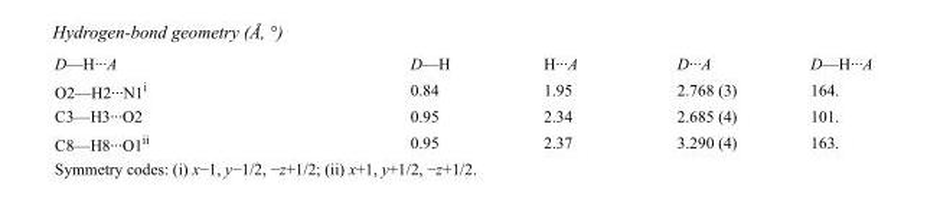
<table><tbody><tr><td>D—H···A</td><td>D—H</td><td>H···A</td><td>D···A</td><td>D—H···A</td></tr><tr><td>O2—H2···N1<sup>i</sup></td><td>0.84</td><td>1.95</td><td>2.768 (3)</td><td>164.</td></tr><tr><td>C3—H3···O2</td><td>0.95</td><td>2.34</td><td>2.685 (4)</td><td>101.</td></tr><tr><td>C8—H8···O1<sup>ii</sup></td><td>0.95</td><td>2.37</td><td>3.290 (4)</td><td>163.</td></tr></tbody></table>